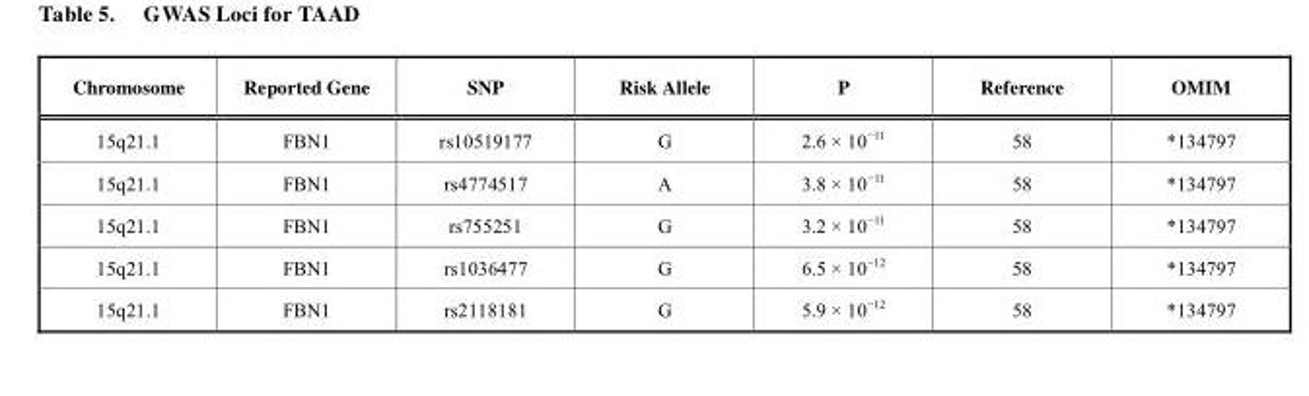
<table><thead><tr><td>Chromosome</td><td>Reported Gene</td><td>SNP</td><td>Risk Allele</td><td>P</td><td>Reference</td><td>OMIM</td></tr></thead><tbody><tr><td>15q21.1</td><td>FBN1</td><td>rs10519177</td><td>G</td><td>2.6 × 10<sup>–11</sup></td><td>58</td><td>*134797</td></tr><tr><td>15q21.1</td><td>FBN1</td><td>rs4774517</td><td>A</td><td>3.8 × 10<sup>–11</sup></td><td>58</td><td>*134797</td></tr><tr><td>15q21.1</td><td>FBN1</td><td>rs755251</td><td>G</td><td>3.2 × 10<sup>–11</sup></td><td>58</td><td>*134797</td></tr><tr><td>15q21.1</td><td>FBN1</td><td>rs1036477</td><td>G</td><td>6.5 × 10<sup>–12</sup></td><td>58</td><td>*134797</td></tr><tr><td>15q21.1</td><td>FBN1</td><td>rs2118181</td><td>G</td><td>5.9 × 10<sup>–12</sup></td><td>58</td><td>*134797</td></tr></tbody></table>